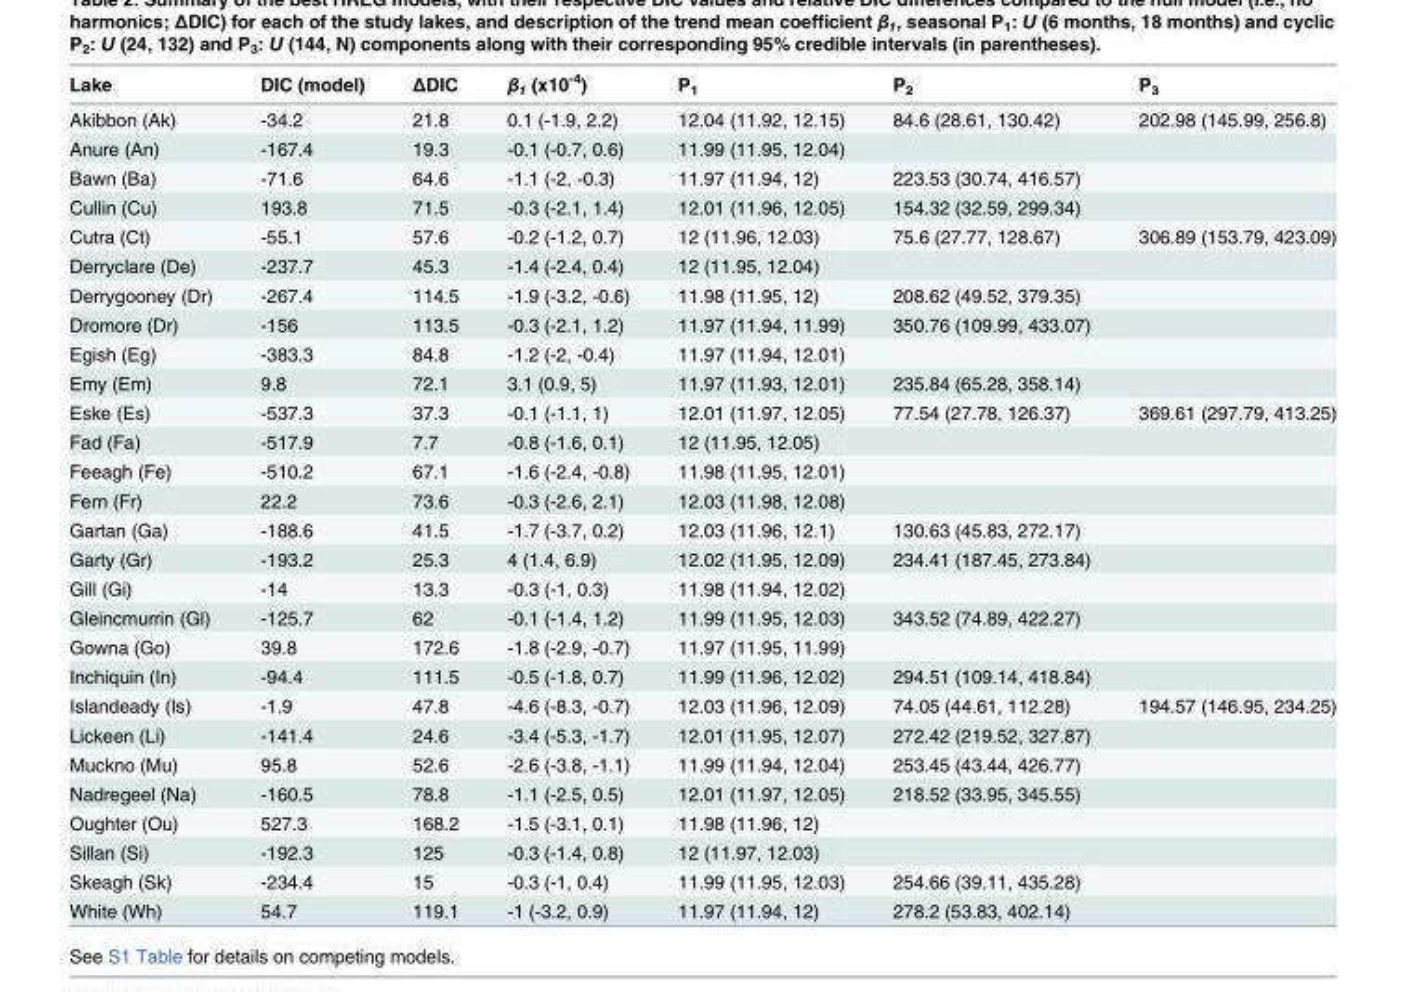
<table><thead><tr><td>Lake</td><td>DIC (model)</td><td>ΔDIC</td><td>β<sub>1</sub> (x10<sup>-4</sup>)</td><td>P<sub>1</sub></td><td>P<sub>2</sub></td><td>P<sub>3</sub></td></tr></thead><tbody><tr><td>Akibbon (Ak)</td><td>-34.2</td><td>21.8</td><td>0.1 (-1.9, 2.2)</td><td>12.04 (11.92, 12.15)</td><td>84.6 (28.61, 130.42)</td><td>202.98 (145.99, 256.8)</td></tr><tr><td>Anure (An)</td><td>-167.4</td><td>19.3</td><td>-0.1 (-0.7, 0.6)</td><td>11.99 (11.95, 12.04)</td><td></td><td></td></tr><tr><td>Bawn (Ba)</td><td>-71.6</td><td>64.6</td><td>-1.1 (-2, -0.3)</td><td>11.97 (11.94, 12)</td><td>223.53 (30.74, 416.57)</td><td></td></tr><tr><td>Cullin (Cu)</td><td>193.8</td><td>71.5</td><td>-0.3 (-2.1, 1.4)</td><td>12.01 (11.96, 12.05)</td><td>154.32 (32.59, 299.34)</td><td></td></tr><tr><td>Cutra (Ct)</td><td>-55.1</td><td>57.6</td><td>-0.2 (-1.2, 0.7)</td><td>12 (11.96, 12.03)</td><td>75.6 (27.77, 128.67)</td><td>306.89 (153.79, 423.09)</td></tr><tr><td>Derryclare (De)</td><td>-237.7</td><td>45.3</td><td>-1.4 (-2.4, 0.4)</td><td>12 (11.95, 12.04)</td><td></td><td></td></tr><tr><td>Derrygooney (Dr)</td><td>-267.4</td><td>114.5</td><td>-1.9 (-3.2, -0.6)</td><td>11.98 (11.95, 12)</td><td>208.62 (49.52, 379.35)</td><td></td></tr><tr><td>Dromore (Dr)</td><td>-156</td><td>113.5</td><td>-0.3 (-2.1, 1.2)</td><td>11.97 (11.94, 11.99)</td><td>350.76 (109.99, 433.07)</td><td></td></tr><tr><td>Egish (Eg)</td><td>-383.3</td><td>84.8</td><td>-1.2 (-2, -0.4)</td><td>11.97 (11.94, 12.01)</td><td></td><td></td></tr><tr><td>Emy (Em)</td><td>9.8</td><td>72.1</td><td>3.1 (0.9, 5)</td><td>11.97 (11.93, 12.01)</td><td>235.84 (65.28, 358.14)</td><td></td></tr><tr><td>Eske (Es)</td><td>-537.3</td><td>37.3</td><td>-0.1 (-1.1, 1)</td><td>12.01 (11.97, 12.05)</td><td>77.54 (27.78, 126.37)</td><td>369.61 (297.79, 413.25)</td></tr><tr><td>Fad (Fa)</td><td>-517.9</td><td>7.7</td><td>-0.8 (-1.6, 0.1)</td><td>12 (11.95, 12.05)</td><td></td><td></td></tr><tr><td>Feeagh (Fe)</td><td>-510.2</td><td>67.1</td><td>-1.6 (-2.4, -0.8)</td><td>11.98 (11.95, 12.01)</td><td></td><td></td></tr><tr><td>Fern (Fr)</td><td>22.2</td><td>73.6</td><td>-0.3 (-2.6, 2.1)</td><td>12.03 (11.98, 12.08)</td><td></td><td></td></tr><tr><td>Gartan (Ga)</td><td>-188.6</td><td>41.5</td><td>-1.7 (-3.7, 0.2)</td><td>12.03 (11.96, 12.1)</td><td>130.63 (45.83, 272.17)</td><td></td></tr><tr><td>Garty (Gr)</td><td>-193.2</td><td>25.3</td><td>4 (1.4, 6.9)</td><td>12.02 (11.95, 12.09)</td><td>234.41 (187.45, 273.84)</td><td></td></tr><tr><td>Gill (Gi)</td><td>-14</td><td>13.3</td><td>-0.3 (-1, 0.3)</td><td>11.98 (11.94, 12.02)</td><td></td><td></td></tr><tr><td>Gleincmurrin (Gl)</td><td>-125.7</td><td>62</td><td>-0.1 (-1.4, 1.2)</td><td>11.99 (11.95, 12.03)</td><td>343.52 (74.89, 422.27)</td><td></td></tr><tr><td>Gowna (Go)</td><td>39.8</td><td>172.6</td><td>-1.8 (-2.9, -0.7)</td><td>11.97 (11.95, 11.99)</td><td></td><td></td></tr><tr><td>Inchiquin (In)</td><td>-94.4</td><td>111.5</td><td>-0.5 (-1.8, 0.7)</td><td>11.99 (11.96, 12.02)</td><td>294.51 (109.14, 418.84)</td><td></td></tr><tr><td>Islandeady (Is)</td><td>-1.9</td><td>47.8</td><td>-4.6 (-8.3, -0.7)</td><td>12.03 (11.96, 12.09)</td><td>74.05 (44.61, 112.28)</td><td>194.57 (146.95, 234.25)</td></tr><tr><td>Lickeen (Li)</td><td>-141.4</td><td>24.6</td><td>-3.4 (-5.3, -1.7)</td><td>12.01 (11.95, 12.07)</td><td>272.42 (219.52, 327.87)</td><td></td></tr><tr><td>Muckno (Mu)</td><td>95.8</td><td>52.6</td><td>-2.6 (-3.8, -1.1)</td><td>11.99 (11.94, 12.04)</td><td>253.45 (43.44, 426.77)</td><td></td></tr><tr><td>Nadregeel (Na)</td><td>-160.5</td><td>78.8</td><td>-1.1 (-2.5, 0.5)</td><td>12.01 (11.97, 12.05)</td><td>218.52 (33.95, 345.55)</td><td></td></tr><tr><td>Oughter (Ou)</td><td>527.3</td><td>168.2</td><td>-1.5 (-3.1, 0.1)</td><td>11.98 (11.96, 12)</td><td></td><td></td></tr><tr><td>Sillan (Si)</td><td>-192.3</td><td>125</td><td>-0.3 (-1.4, 0.8)</td><td>12 (11.97, 12.03)</td><td></td><td></td></tr><tr><td>Skeagh (Sk)</td><td>-234.4</td><td>15</td><td>-0.3 (-1, 0.4)</td><td>11.99 (11.95, 12.03)</td><td>254.66 (39.11, 435.28)</td><td></td></tr><tr><td>White (Wh)</td><td>54.7</td><td>119.1</td><td>-1 (-3.2, 0.9)</td><td>11.97 (11.94, 12)</td><td>278.2 (53.83, 402.14)</td><td></td></tr></tbody></table>